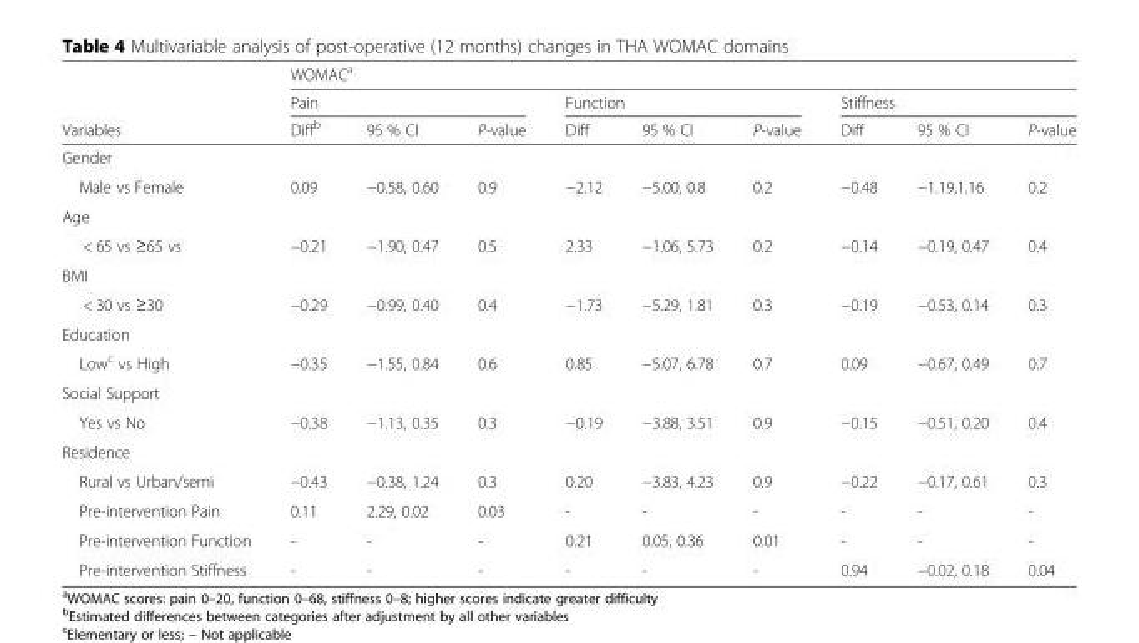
<table><thead><tr><td rowspan="3">Variables</td><td colspan="9">WOMAC<sup>a</sup></td></tr><tr><td colspan="3">Pain</td><td colspan="3">Function</td><td colspan="3">Stiffness</td></tr><tr><td>Diff<sup>b</sup></td><td>95 % CI</td><td>P-value</td><td>Diff</td><td>95 % CI</td><td>P-value</td><td>Diff</td><td>95 % CI</td><td>P-value</td></tr></thead><tbody><tr><td colspan="10">Gender</td></tr><tr><td>Male vs Female</td><td>0.09</td><td>−0.58, 0.60</td><td>0.9</td><td>−2.12</td><td>−5.00, 0.8</td><td>0.2</td><td>−0.48</td><td>−1.19,1.16</td><td>0.2</td></tr><tr><td colspan="10">Age</td></tr><tr><td>&lt; 65 vs ≥65 vs</td><td>−0.21</td><td>−1.90, 0.47</td><td>0.5</td><td>2.33</td><td>−1.06, 5.73</td><td>0.2</td><td>−0.14</td><td>−0.19, 0.47</td><td>0.4</td></tr><tr><td colspan="10">BMI</td></tr><tr><td>&lt; 30 vs ≥30</td><td>−0.29</td><td>−0.99, 0.40</td><td>0.4</td><td>−1.73</td><td>−5.29, 1.81</td><td>0.3</td><td>−0.19</td><td>−0.53, 0.14</td><td>0.3</td></tr><tr><td colspan="10">Education</td></tr><tr><td>Low<sup>c</sup> vs High</td><td>−0.35</td><td>−1.55, 0.84</td><td>0.6</td><td>0.85</td><td>−5.07, 6.78</td><td>0.7</td><td>0.09</td><td>−0.67, 0.49</td><td>0.7</td></tr><tr><td colspan="10">Social Support</td></tr><tr><td>Yes vs No</td><td>−0.38</td><td>−1.13, 0.35</td><td>0.3</td><td>−0.19</td><td>−3.88, 3.51</td><td>0.9</td><td>−0.15</td><td>−0.51, 0.20</td><td>0.4</td></tr><tr><td colspan="10">Residence</td></tr><tr><td>Rural vs Urban/semi</td><td>−0.43</td><td>−0.38, 1.24</td><td>0.3</td><td>0.20</td><td>−3.83, 4.23</td><td>0.9</td><td>−0.22</td><td>−0.17, 0.61</td><td>0.3</td></tr><tr><td>Pre-intervention Pain</td><td>0.11</td><td>2.29, 0.02</td><td>0.03</td><td>-</td><td>-</td><td>-</td><td>-</td><td>-</td><td>-</td></tr><tr><td>Pre-intervention Function</td><td>-</td><td>-</td><td>-</td><td>0.21</td><td>0.05, 0.36</td><td>0.01</td><td>-</td><td>-</td><td>-</td></tr><tr><td>Pre-intervention Stiffness</td><td>-</td><td>-</td><td>-</td><td>-</td><td>-</td><td>-</td><td>0.94</td><td>−0.02, 0.18</td><td>0.04</td></tr></tbody></table>